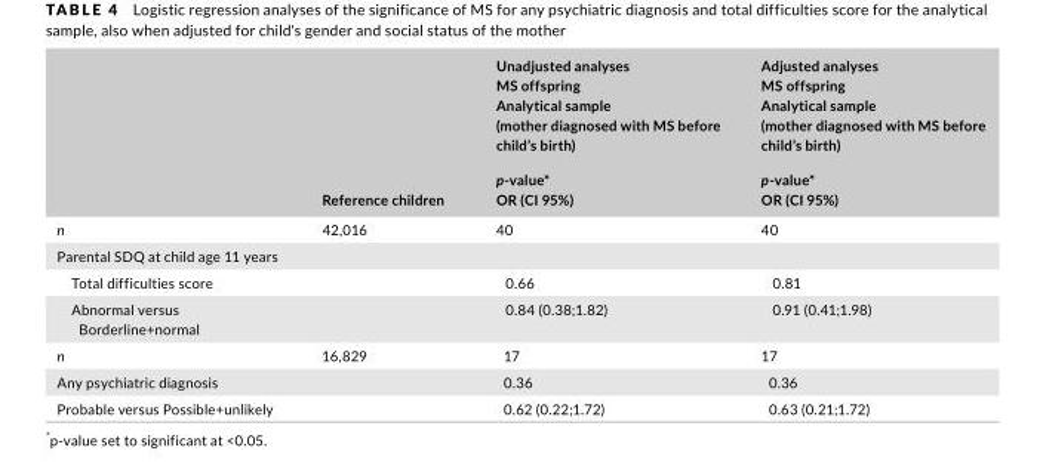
<table><thead><tr><td rowspan="2"></td><td rowspan="2">Reference children</td><td rowspan="2">Unadjusted analyses MS offspring Analytical sample (mother diagnosed with MS before child’s birth) p‐value* OR (CI 95%)</td><td rowspan="2">Adjusted analyses MS offspring Analytical sample (mother diagnosed with MS before child’s birth) p‐value* OR (CI 95%)</td></tr><tr></tr></thead><tbody><tr><td>n</td><td>42,016</td><td>40</td><td>40</td></tr><tr><td colspan="4">Parental SDQ at child age 11 years</td></tr><tr><td>Total difficulties score</td><td></td><td>0.66</td><td>0.81</td></tr><tr><td>Abnormal versus Borderline+normal</td><td></td><td>0.84 (0.38;1.82)</td><td>0.91 (0.41;1.98)</td></tr><tr><td>n</td><td>16,829</td><td>17</td><td>17</td></tr><tr><td>Any psychiatric diagnosis</td><td></td><td>0.36</td><td>0.36</td></tr><tr><td>Probable versus Possible+unlikely</td><td></td><td>0.62 (0.22;1.72)</td><td>0.63 (0.21;1.72)</td></tr></tbody></table>